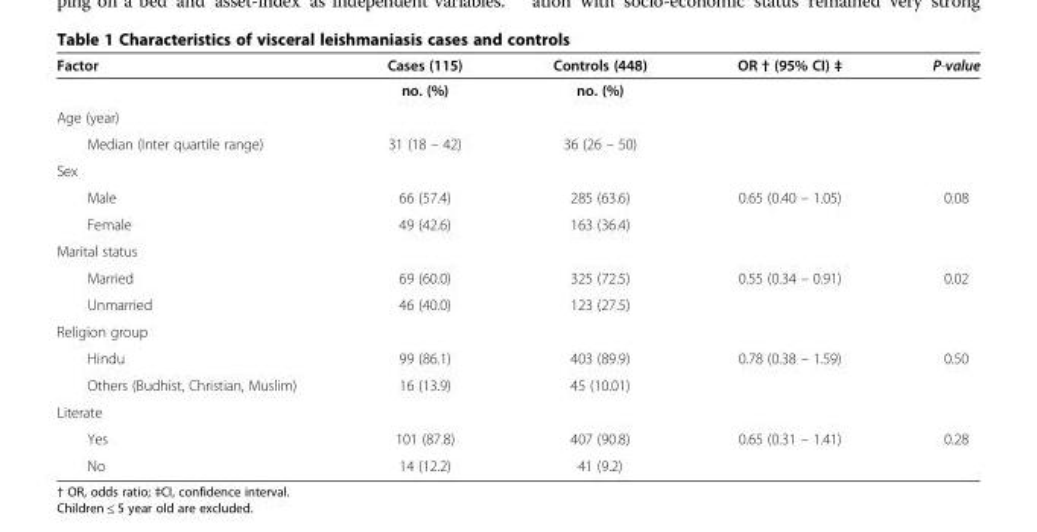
<table><thead><tr><td>Factor</td><td>Cases (115)</td><td>Controls (448)</td><td>OR † (95% CI) ‡</td><td>P-value</td></tr></thead><tbody><tr><td></td><td>no. (%)</td><td>no. (%)</td><td></td><td></td></tr><tr><td colspan="5">Age (year)</td></tr><tr><td>Median (Inter quartile range)</td><td>31 (18 – 42)</td><td>36 (26 – 50)</td><td></td><td></td></tr><tr><td colspan="5">Sex</td></tr><tr><td>Male</td><td>66 (57.4)</td><td>285 (63.6)</td><td>0.65 (0.40 – 1.05)</td><td>0.08</td></tr><tr><td>Female</td><td>49 (42.6)</td><td>163 (36.4)</td><td></td><td></td></tr><tr><td colspan="5">Marital status</td></tr><tr><td>Married</td><td>69 (60.0)</td><td>325 (72.5)</td><td>0.55 (0.34 – 0.91)</td><td>0.02</td></tr><tr><td>Unmarried</td><td>46 (40.0)</td><td>123 (27.5)</td><td></td><td></td></tr><tr><td colspan="5">Religion group</td></tr><tr><td>Hindu</td><td>99 (86.1)</td><td>403 (89.9)</td><td>0.78 (0.38 – 1.59)</td><td>0.50</td></tr><tr><td>Others (Budhist, Christian, Muslim)</td><td>16 (13.9)</td><td>45 (10.01)</td><td></td><td></td></tr><tr><td colspan="5">Literate</td></tr><tr><td>Yes</td><td>101 (87.8)</td><td>407 (90.8)</td><td>0.65 (0.31 – 1.41)</td><td>0.28</td></tr><tr><td>No</td><td>14 (12.2)</td><td>41 (9.2)</td><td></td><td></td></tr></tbody></table>